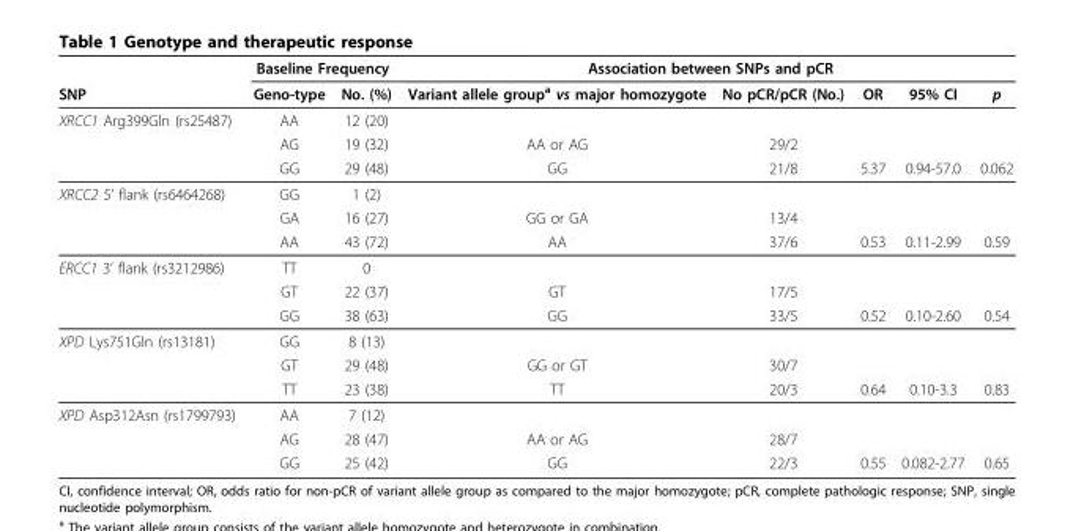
<table><thead><tr><td rowspan="2">SNP</td><td colspan="2">Baseline Frequency</td><td colspan="5">Association between SNPs and pCR</td></tr><tr><td>Geno-type</td><td>No. (%)</td><td>Variant allele group<sup>a</sup> vs major homozygote</td><td>No pCR/pCR (No.)</td><td>OR</td><td>95% CI</td><td>p</td></tr></thead><tbody><tr><td rowspan="3">XRCC1 Arg399Gln (rs25487)</td><td>AA</td><td>12 (20)</td><td></td><td></td><td></td><td></td><td></td></tr><tr><td>AG</td><td>19 (32)</td><td>AA or AG</td><td>29/2</td><td></td><td></td><td></td></tr><tr><td>GG</td><td>29 (48)</td><td>GG</td><td>21/8</td><td>5.37</td><td>0.94-57.0</td><td>0.062</td></tr><tr><td rowspan="3">XRCC2 5’ flank (rs6464268)</td><td>GG</td><td>1 (2)</td><td></td><td></td><td></td><td></td><td></td></tr><tr><td>GA</td><td>16 (27)</td><td>GG or GA</td><td>13/4</td><td></td><td></td><td></td></tr><tr><td>AA</td><td>43 (72)</td><td>AA</td><td>37/6</td><td>0.53</td><td>0.11-2.99</td><td>0.59</td></tr><tr><td rowspan="3">ERCC1 3’ flank (rs3212986)</td><td>TT</td><td>0</td><td></td><td></td><td></td><td></td><td></td></tr><tr><td>GT</td><td>22 (37)</td><td>GT</td><td>17/5</td><td></td><td></td><td></td></tr><tr><td>GG</td><td>38 (63)</td><td>GG</td><td>33/5</td><td>0.52</td><td>0.10-2.60</td><td>0.54</td></tr><tr><td rowspan="3">XPD Lys751Gln (rs13181)</td><td>GG</td><td>8 (13)</td><td></td><td></td><td></td><td></td><td></td></tr><tr><td>GT</td><td>29 (48)</td><td>GG or GT</td><td>30/7</td><td></td><td></td><td></td></tr><tr><td>TT</td><td>23 (38)</td><td>TT</td><td>20/3</td><td>0.64</td><td>0.10-3.3</td><td>0.83</td></tr><tr><td rowspan="3">XPD Asp312Asn (rs1799793)</td><td>AA</td><td>7 (12)</td><td></td><td></td><td></td><td></td><td></td></tr><tr><td>AG</td><td>28 (47)</td><td>AA or AG</td><td>28/7</td><td></td><td></td><td></td></tr><tr><td>GG</td><td>25 (42)</td><td>GG</td><td>22/3</td><td>0.55</td><td>0.082-2.77</td><td>0.65</td></tr></tbody></table>